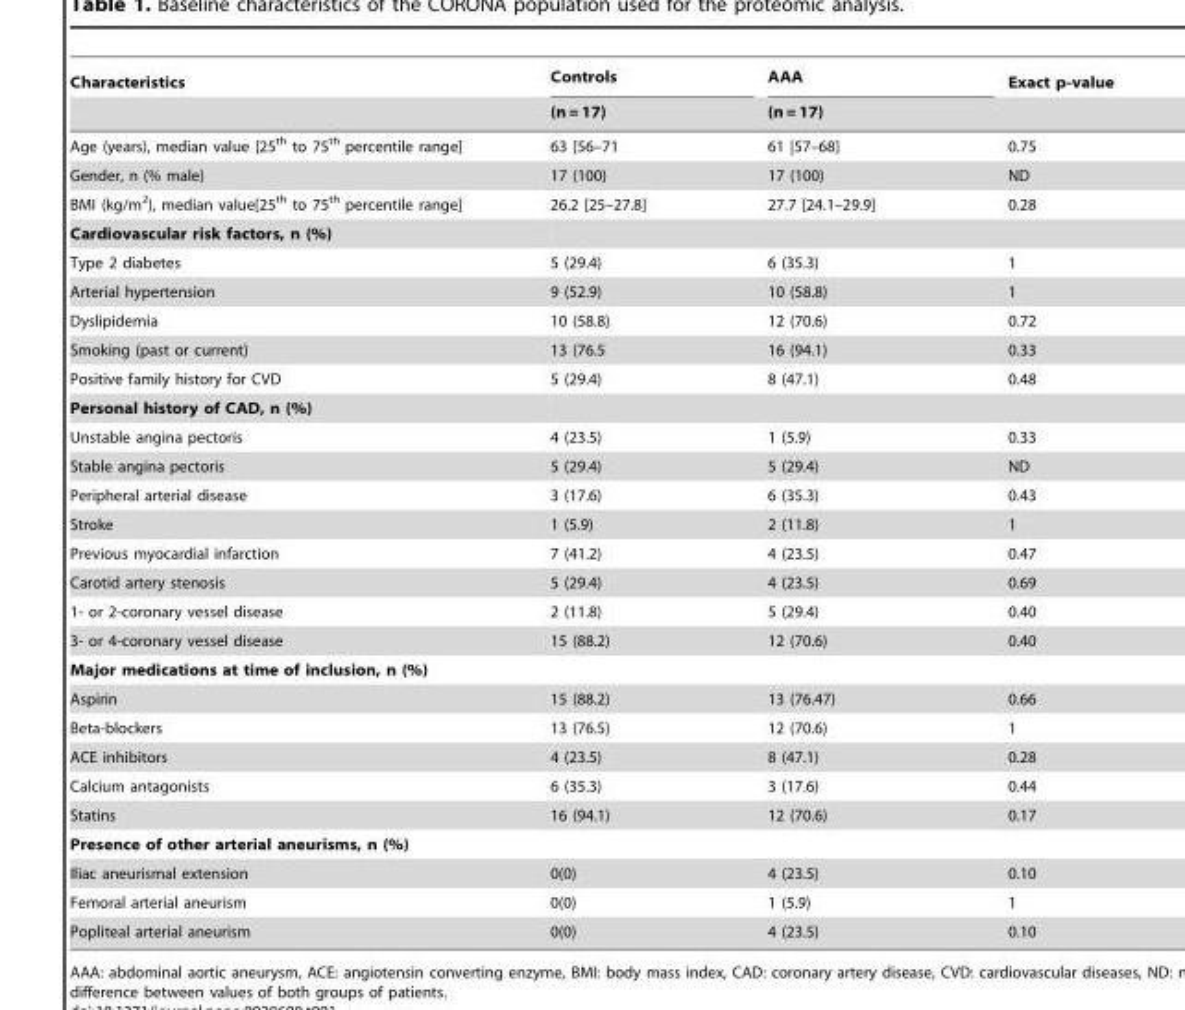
<table><thead><tr><td rowspan="2">Characteristics</td><td rowspan="2">Controls (n = 17)</td><td rowspan="2">AAA (n = 17)</td><td rowspan="2">Exact p-value</td></tr><tr></tr></thead><tbody><tr><td>Age (years), median value [25<sup>th</sup> to 75<sup>th</sup> percentile range]</td><td>63 [56–71</td><td>61 |57–68]</td><td>0.75</td></tr><tr><td>Gender, n (% male)</td><td>17 (100)</td><td>17 (100)</td><td>ND</td></tr><tr><td>BMI (kg/m<sup>2</sup>), median value[25<sup>th</sup> to 75<sup>th</sup> percentile range]</td><td>26.2 [25–27.8]</td><td>27.7 [24.1–29.9]</td><td>0.28</td></tr><tr><td colspan="4">Cardiovascular risk factors, n (%)</td></tr><tr><td>Type 2 diabetes</td><td>5 (29.4)</td><td>6 (35.3)</td><td>1</td></tr><tr><td>Arterial hypertension</td><td>9 (52.9)</td><td>10 (58.8)</td><td>1</td></tr><tr><td>Dyslipidemia</td><td>10 (58.8)</td><td>12 (70.6)</td><td>0.72</td></tr><tr><td>Smoking (past or current)</td><td>13 (76.5</td><td>16 (94.1)</td><td>0.33</td></tr><tr><td>Positive family history for CVD</td><td>5 (29.4)</td><td>8 (47.1)</td><td>0.48</td></tr><tr><td colspan="4">Personal history of CAD, n (%)</td></tr><tr><td>Unstable angina pectoris</td><td>4 (23.5)</td><td>1 (5.9)</td><td>0.33</td></tr><tr><td>Stable angina pectoris</td><td>5 (29.4)</td><td>5 (29.4)</td><td>ND</td></tr><tr><td>Peripheral arterial disease</td><td>3 (17.6)</td><td>6 (35.3)</td><td>0.43</td></tr><tr><td>Stroke</td><td>1 (5.9)</td><td>2 (11.8)</td><td>1</td></tr><tr><td>Previous myocardial infarction</td><td>7 (41.2)</td><td>4 (23.5)</td><td>0.47</td></tr><tr><td>Carotid artery stenosis</td><td>5 (29.4)</td><td>4 (23.5)</td><td>0.69</td></tr><tr><td>1- or 2-coronary vessel disease</td><td>2 (11.8)</td><td>5 (29.4)</td><td>0.40</td></tr><tr><td>3- or 4-coronary vessel disease</td><td>15 (88.2)</td><td>12 (70.6)</td><td>0.40</td></tr><tr><td colspan="4">Major medications at time of inclusion, n (%)</td></tr><tr><td>Aspirin</td><td>15 (88.2)</td><td>13 (76.47)</td><td>0.66</td></tr><tr><td>Beta-blockers</td><td>13 (76.5)</td><td>12 (70.6)</td><td>1</td></tr><tr><td>ACE inhibitors</td><td>4 (23.5)</td><td>8 (47.1)</td><td>0.28</td></tr><tr><td>Calcium antagonists</td><td>6 (35.3)</td><td>3 (17.6)</td><td>0.44</td></tr><tr><td>Statins</td><td>16 (94.1)</td><td>12 (70.6)</td><td>0.17</td></tr><tr><td colspan="4">Presence of other arterial aneurisms, n (%)</td></tr><tr><td>Iliac aneurismal extension</td><td>0(0)</td><td>4 (23.5)</td><td>0.10</td></tr><tr><td>Femoral arterial aneurism</td><td>0(0)</td><td>1 (5.9)</td><td>1</td></tr><tr><td>Popliteal arterial aneurism</td><td>0(0)</td><td>4 (23.5)</td><td>0.10</td></tr></tbody></table>